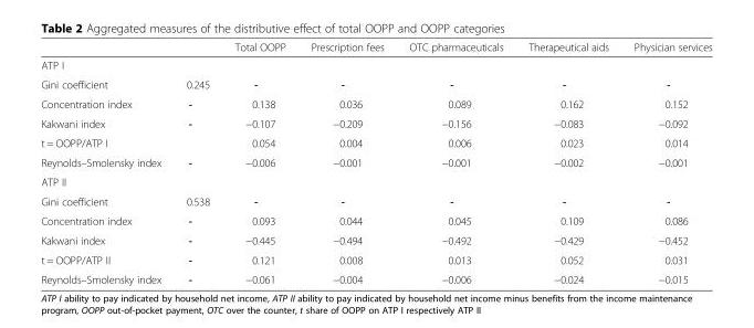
<table><thead><tr><td></td><td></td><td>Total OOPP</td><td>Prescription fees</td><td>OTC pharmaceuticals</td><td>Therapeutical aids</td><td>Physician services</td></tr></thead><tbody><tr><td colspan="7">ATP I</td></tr><tr><td>Gini coefficient</td><td>0.245</td><td>-</td><td>-</td><td>-</td><td>-</td><td>-</td></tr><tr><td>Concentration index</td><td>-</td><td>0.138</td><td>0.036</td><td>0.089</td><td>0.162</td><td>0.152</td></tr><tr><td>Kakwani index</td><td>-</td><td>−0.107</td><td>−0.209</td><td>−0.156</td><td>−0.083</td><td>−0.092</td></tr><tr><td>t = OOPP/ATP I</td><td></td><td>0.054</td><td>0.004</td><td>0.006</td><td>0.023</td><td>0.014</td></tr><tr><td>Reynolds–Smolensky index</td><td>-</td><td>−0.006</td><td>−0.001</td><td>−0.001</td><td>−0.002</td><td>−0.001</td></tr><tr><td colspan="7">ATP II</td></tr><tr><td>Gini coefficient</td><td>0.538</td><td>-</td><td>-</td><td>-</td><td>-</td><td>-</td></tr><tr><td>Concentration index</td><td>-</td><td>0.093</td><td>0.044</td><td>0.045</td><td>0.109</td><td>0.086</td></tr><tr><td>Kakwani index</td><td>-</td><td>−0.445</td><td>−0.494</td><td>−0.492</td><td>−0.429</td><td>−0.452</td></tr><tr><td>t = OOPP/ATP II</td><td>-</td><td>0.121</td><td>0.008</td><td>0.013</td><td>0.052</td><td>0.031</td></tr><tr><td>Reynolds–Smolensky index</td><td>-</td><td>−0.061</td><td>−0.004</td><td>−0.006</td><td>−0.024</td><td>−0.015</td></tr></tbody></table>